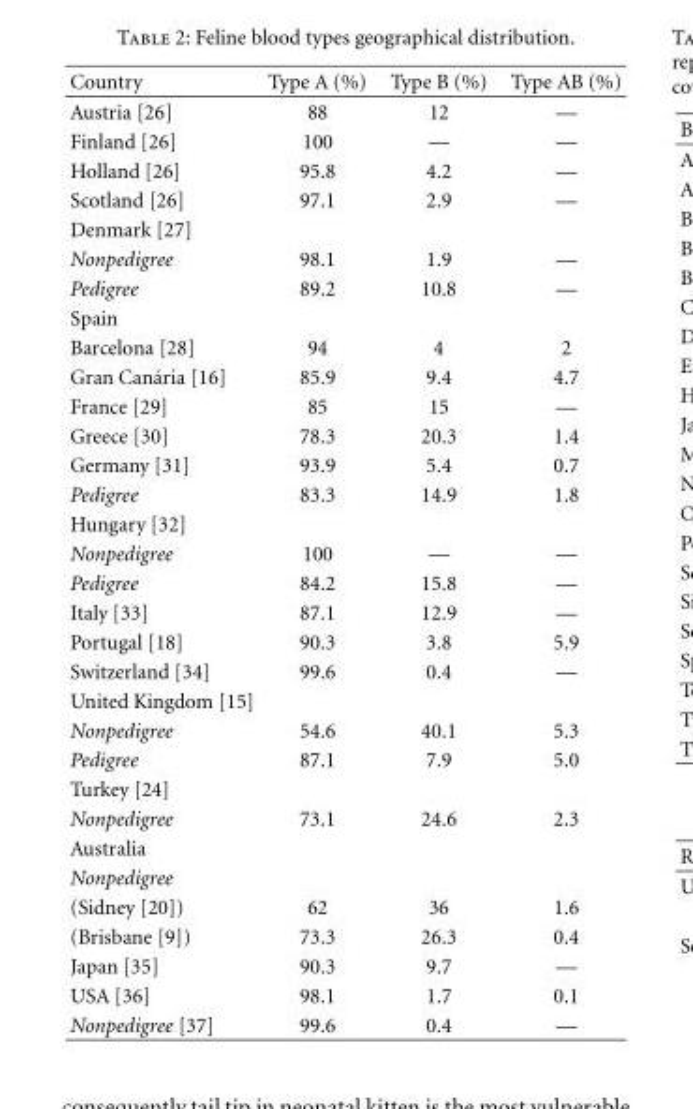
<table><thead><tr><td>Country</td><td>Type A (%)</td><td>Type B (%)</td><td>Type AB (%)</td></tr></thead><tbody><tr><td>Austria [26]</td><td>88</td><td>12</td><td>—</td></tr><tr><td>Finland [26]</td><td>100</td><td>—</td><td>—</td></tr><tr><td>Holland [26]</td><td>95.8</td><td>4.2</td><td>—</td></tr><tr><td>Scotland [26]</td><td>97.1</td><td>2.9</td><td>—</td></tr><tr><td colspan="4">Denmark [27]</td></tr><tr><td>Nonpedigree</td><td>98.1</td><td>1.9</td><td>—</td></tr><tr><td>Pedigree</td><td>89.2</td><td>10.8</td><td>—</td></tr><tr><td colspan="4">Spain</td></tr><tr><td>Barcelona [28]</td><td>94</td><td>4</td><td>2</td></tr><tr><td>Gran Can´aria [16]</td><td>85.9</td><td>9.4</td><td>4.7</td></tr><tr><td>France [29]</td><td>85</td><td>15</td><td>—</td></tr><tr><td>Greece [30]</td><td>78.3</td><td>20.3</td><td>1.4</td></tr><tr><td>Germany [31]</td><td>93.9</td><td>5.4</td><td>0.7</td></tr><tr><td>Pedigree</td><td>83.3</td><td>14.9</td><td>1.8</td></tr><tr><td colspan="4">Hungary [32]</td></tr><tr><td>Nonpedigree</td><td>100</td><td>—</td><td>—</td></tr><tr><td>Pedigree</td><td>84.2</td><td>15.8</td><td>—</td></tr><tr><td>Italy [33]</td><td>87.1</td><td>12.9</td><td>—</td></tr><tr><td>Portugal [18]</td><td>90.3</td><td>3.8</td><td>5.9</td></tr><tr><td>Switzerland [34]</td><td>99.6</td><td>0.4</td><td>—</td></tr><tr><td colspan="4">United Kingdom [15]</td></tr><tr><td>Nonpedigree</td><td>54.6</td><td>40.1</td><td>5.3</td></tr><tr><td>Pedigree</td><td>87.1</td><td>7.9</td><td>5.0</td></tr><tr><td colspan="4">Turkey [24]</td></tr><tr><td>Nonpedigree</td><td>73.1</td><td>24.6</td><td>2.3</td></tr><tr><td colspan="4">Australia</td></tr><tr><td colspan="4">Nonpedigree</td></tr><tr><td>(Sidney [20])</td><td>62</td><td>36</td><td>1.6</td></tr><tr><td>(Brisbane [9])</td><td>73.3</td><td>26.3</td><td>0.4</td></tr><tr><td>Japan [35]</td><td>90.3</td><td>9.7</td><td>—</td></tr><tr><td>USA [36]</td><td>98.1</td><td>1.7</td><td>0.1</td></tr><tr><td>Nonpedigree [37]</td><td>99.6</td><td>0.4</td><td>—</td></tr></tbody></table>